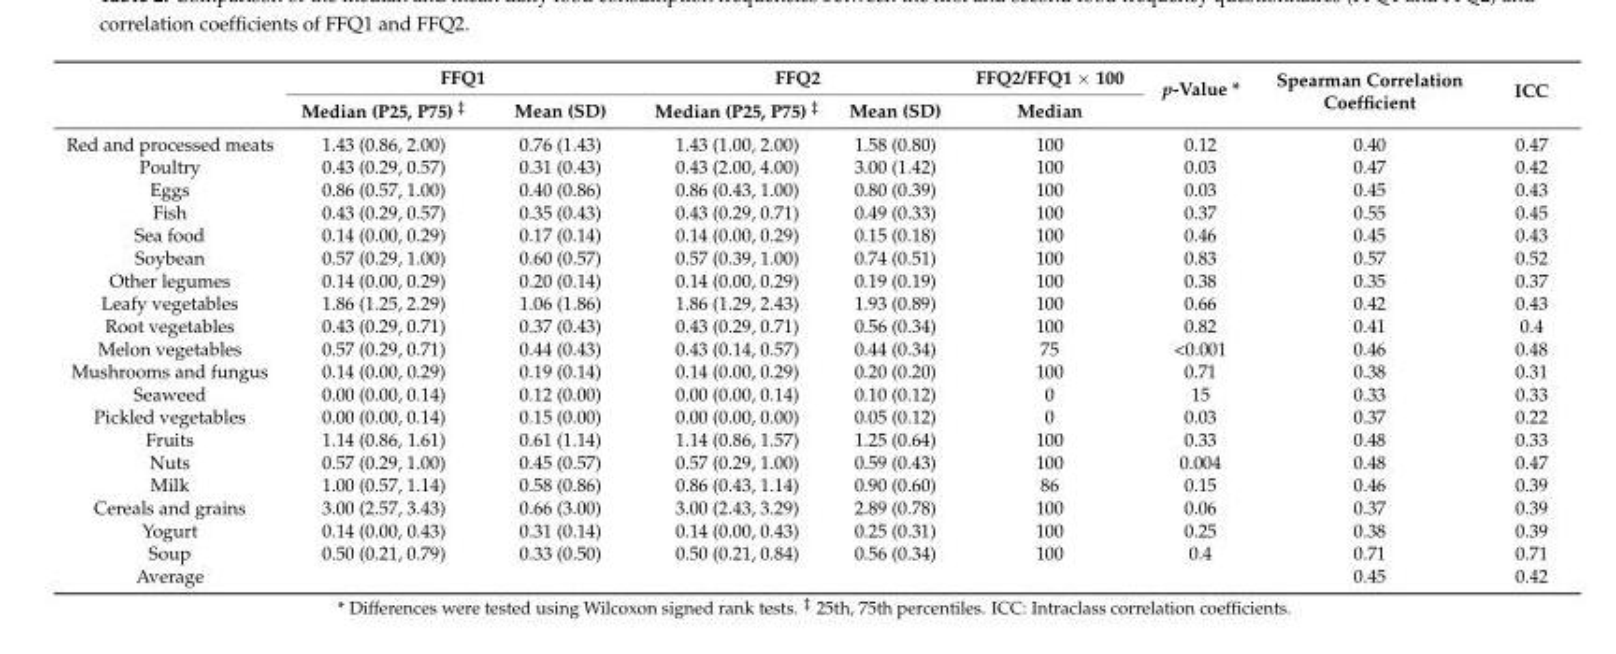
<table><thead><tr><td rowspan="2"></td><td colspan="2">FFQ1</td><td colspan="2">FFQ2</td><td rowspan="2">FFQ2/FFQ1 ˆ 100 Median</td><td rowspan="2">p-Value *</td><td rowspan="2">Spearman Correlation Coefficient</td><td rowspan="2">ICC</td></tr><tr><td>Median (P25, P75) <sup>‡</sup></td><td>Mean (SD)</td><td>Median (P25, P75) <sup>‡</sup></td><td>Mean (SD)</td></tr></thead><tbody><tr><td>Red and processed meats</td><td>1.43 (0.86, 2.00)</td><td>0.76 (1.43)</td><td>1.43 (1.00, 2.00)</td><td>1.58 (0.80)</td><td>100</td><td>0.12</td><td>0.40</td><td>0.47</td></tr><tr><td>Poultry</td><td>0.43 (0.29, 0.57)</td><td>0.31 (0.43)</td><td>0.43 (2.00, 4.00)</td><td>3.00 (1.42)</td><td>100</td><td>0.03</td><td>0.47</td><td>0.42</td></tr><tr><td>Eggs</td><td>0.86 (0.57, 1.00)</td><td>0.40 (0.86)</td><td>0.86 (0.43, 1.00)</td><td>0.80 (0.39)</td><td>100</td><td>0.03</td><td>0.45</td><td>0.43</td></tr><tr><td>Fish</td><td>0.43 (0.29, 0.57)</td><td>0.35 (0.43)</td><td>0.43 (0.29, 0.71)</td><td>0.49 (0.33)</td><td>100</td><td>0.37</td><td>0.55</td><td>0.45</td></tr><tr><td>Sea food</td><td>0.14 (0.00, 0.29)</td><td>0.17 (0.14)</td><td>0.14 (0.00, 0.29)</td><td>0.15 (0.18)</td><td>100</td><td>0.46</td><td>0.45</td><td>0.43</td></tr><tr><td>Soybean</td><td>0.57 (0.29, 1.00)</td><td>0.60 (0.57)</td><td>0.57 (0.39, 1.00)</td><td>0.74 (0.51)</td><td>100</td><td>0.83</td><td>0.57</td><td>0.52</td></tr><tr><td>Other legumes</td><td>0.14 (0.00, 0.29)</td><td>0.20 (0.14)</td><td>0.14 (0.00, 0.29)</td><td>0.19 (0.19)</td><td>100</td><td>0.38</td><td>0.35</td><td>0.37</td></tr><tr><td>Leafy vegetables</td><td>1.86 (1.25, 2.29)</td><td>1.06 (1.86)</td><td>1.86 (1.29, 2.43)</td><td>1.93 (0.89)</td><td>100</td><td>0.66</td><td>0.42</td><td>0.43</td></tr><tr><td>Root vegetables</td><td>0.43 (0.29, 0.71)</td><td>0.37 (0.43)</td><td>0.43 (0.29, 0.71)</td><td>0.56 (0.34)</td><td>100</td><td>0.82</td><td>0.41</td><td>0.4</td></tr><tr><td>Melon vegetables</td><td>0.57 (0.29, 0.71)</td><td>0.44 (0.43)</td><td>0.43 (0.14, 0.57)</td><td>0.44 (0.34)</td><td>75</td><td>&lt;0.001</td><td>0.46</td><td>0.48</td></tr><tr><td>Mushrooms and fungus</td><td>0.14 (0.00, 0.29)</td><td>0.19 (0.14)</td><td>0.14 (0.00, 0.29)</td><td>0.20 (0.20)</td><td>100</td><td>0.71</td><td>0.38</td><td>0.31</td></tr><tr><td>Seaweed</td><td>0.00 (0.00, 0.14)</td><td>0.12 (0.00)</td><td>0.00 (0.00, 0.14)</td><td>0.10 (0.12)</td><td>0</td><td>15</td><td>0.33</td><td>0.33</td></tr><tr><td>Pickled vegetables</td><td>0.00 (0.00, 0.14)</td><td>0.15 (0.00)</td><td>0.00 (0.00, 0.00)</td><td>0.05 (0.12)</td><td>0</td><td>0.03</td><td>0.37</td><td>0.22</td></tr><tr><td>Fruits</td><td>1.14 (0.86, 1.61)</td><td>0.61 (1.14)</td><td>1.14 (0.86, 1.57)</td><td>1.25 (0.64)</td><td>100</td><td>0.33</td><td>0.48</td><td>0.33</td></tr><tr><td>Nuts</td><td>0.57 (0.29, 1.00)</td><td>0.45 (0.57)</td><td>0.57 (0.29, 1.00)</td><td>0.59 (0.43)</td><td>100</td><td>0.004</td><td>0.48</td><td>0.47</td></tr><tr><td>Milk</td><td>1.00 (0.57, 1.14)</td><td>0.58 (0.86)</td><td>0.86 (0.43, 1.14)</td><td>0.90 (0.60)</td><td>86</td><td>0.15</td><td>0.46</td><td>0.39</td></tr><tr><td>Cereals and grains</td><td>3.00 (2.57, 3.43)</td><td>0.66 (3.00)</td><td>3.00 (2.43, 3.29)</td><td>2.89 (0.78)</td><td>100</td><td>0.06</td><td>0.37</td><td>0.39</td></tr><tr><td>Yogurt</td><td>0.14 (0.00, 0.43)</td><td>0.31 (0.14)</td><td>0.14 (0.00, 0.43)</td><td>0.25 (0.31)</td><td>100</td><td>0.25</td><td>0.38</td><td>0.39</td></tr><tr><td>Soup</td><td>0.50 (0.21, 0.79)</td><td>0.33 (0.50)</td><td>0.50 (0.21, 0.84)</td><td>0.56 (0.34)</td><td>100</td><td>0.4</td><td>0.71</td><td>0.71</td></tr><tr><td>Average</td><td></td><td></td><td></td><td></td><td></td><td></td><td>0.45</td><td>0.42</td></tr></tbody></table>